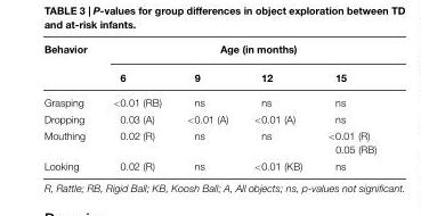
<table><thead><tr><td rowspan="2">Behavior</td><td colspan="4">Age (in months)</td></tr><tr><td>6</td><td>9</td><td>12</td><td>15</td></tr></thead><tbody><tr><td>Grasping</td><td>&lt;0.01 (RB)</td><td>ns</td><td>ns</td><td>ns</td></tr><tr><td>Dropping</td><td>0.03 (A)</td><td>&lt;0.01 (A)</td><td>&lt;0.01 (A)</td><td>ns</td></tr><tr><td>Mouthing</td><td>0.02 (R)</td><td>ns</td><td>ns</td><td>&lt;0.01 (R) 0.05 (RB)</td></tr><tr><td>Looking</td><td>0.02 (R)</td><td>ns</td><td>&lt;0.01 (KB)</td><td>ns</td></tr></tbody></table>